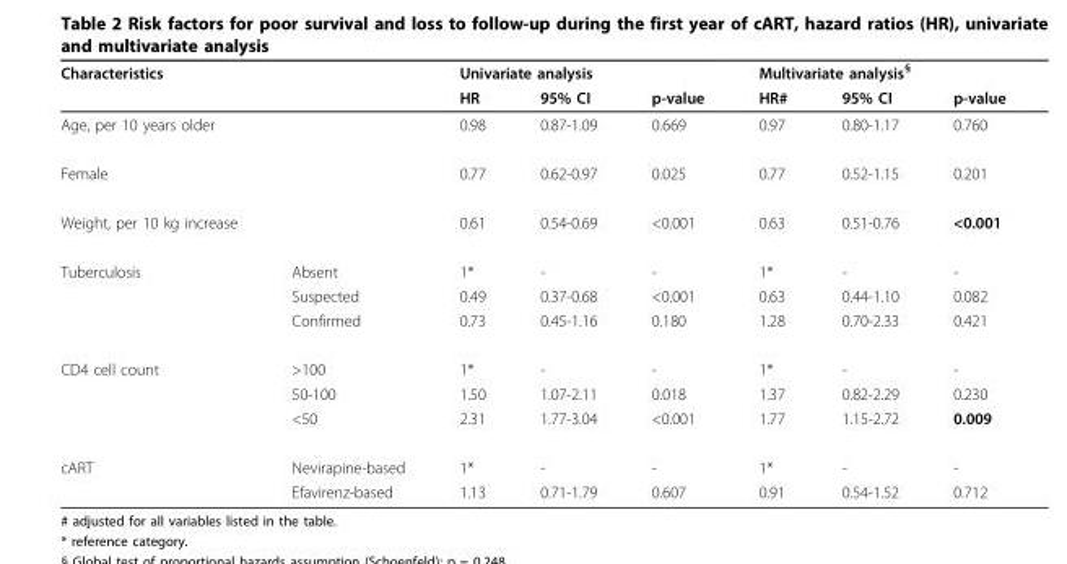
<table><thead><tr><td rowspan="2">Characteristics</td><td rowspan="2"></td><td colspan="3">Univariate analysis</td><td colspan="3">Multivariate analysis<sup>§</sup></td></tr><tr><td>HR</td><td>95% CI</td><td>p-value</td><td>HR#</td><td>95% CI</td><td>p-value</td></tr></thead><tbody><tr><td colspan="2">Age, per 10 years older</td><td>0.98</td><td>0.87-1.09</td><td>0.669</td><td>0.97</td><td>0.80-1.17</td><td>0.760</td></tr><tr><td>Female</td><td></td><td>0.77</td><td>0.62-0.97</td><td>0.025</td><td>0.77</td><td>0.52-1.15</td><td>0.201</td></tr><tr><td>Weight, per 10 kg increase</td><td></td><td>0.61</td><td>0.54-0.69</td><td>&lt;0.001</td><td>0.63</td><td>0.51-0.76</td><td>&lt;0.001</td></tr><tr><td rowspan="3">Tuberculosis</td><td>Absent</td><td>1*</td><td>-</td><td>-</td><td>1*</td><td>-</td><td>-</td></tr><tr><td>Suspected</td><td>0.49</td><td>0.37-0.68</td><td>&lt;0.001</td><td>0.63</td><td>0.44-1.10</td><td>0.082</td></tr><tr><td>Confirmed</td><td>0.73</td><td>0.45-1.16</td><td>0.180</td><td>1.28</td><td>0.70-2.33</td><td>0.421</td></tr><tr><td rowspan="3">CD4 cell count</td><td>&gt;100</td><td>1*</td><td>-</td><td>-</td><td>1*</td><td>-</td><td>-</td></tr><tr><td>50-100</td><td>1.50</td><td>1.07-2.11</td><td>0.018</td><td>1.37</td><td>0.82-2.29</td><td>0.230</td></tr><tr><td>&lt;50</td><td>2.31</td><td>1.77-3.04</td><td>&lt;0.001</td><td>1.77</td><td>1.15-2.72</td><td>0.009</td></tr><tr><td rowspan="2">cART</td><td>Nevirapine-based</td><td>1*</td><td>-</td><td>-</td><td>1*</td><td>-</td><td>-</td></tr><tr><td>Efavirenz-based</td><td>1.13</td><td>0.71-1.79</td><td>0.607</td><td>0.91</td><td>0.54-1.52</td><td>0.712</td></tr></tbody></table>